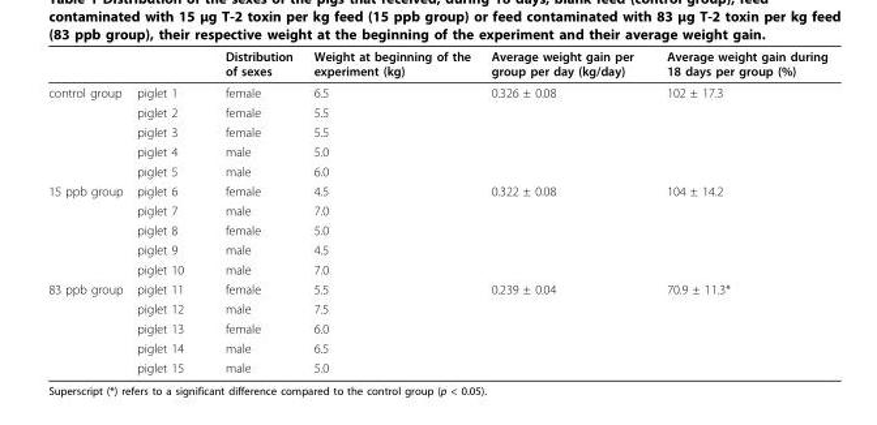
<table><thead><tr><td></td><td></td><td>Distribution of sexes</td><td>Weight at beginning of the experiment (kg)</td><td>Average weight gain per group per day (kg/day)</td><td>Average weight gain during 18 days per group (%)</td></tr></thead><tbody><tr><td rowspan="5">control group</td><td>piglet 1</td><td>female</td><td>6.5</td><td>0.326 ± 0.08</td><td>102 ± 17.3</td></tr><tr><td>piglet 2</td><td>female</td><td>5.5</td><td></td><td></td></tr><tr><td>piglet 3</td><td>female</td><td>5.5</td><td></td><td></td></tr><tr><td>piglet 4</td><td>male</td><td>5.0</td><td></td><td></td></tr><tr><td>piglet 5</td><td>male</td><td>6.0</td><td></td><td></td></tr><tr><td rowspan="5">15 ppb group</td><td>piglet 6</td><td>female</td><td>4.5</td><td>0.322 ± 0.08</td><td>104 ± 14.2</td></tr><tr><td>piglet 7</td><td>male</td><td>7.0</td><td></td><td></td></tr><tr><td>piglet 8</td><td>female</td><td>5.0</td><td></td><td></td></tr><tr><td>piglet 9</td><td>male</td><td>4.5</td><td></td><td></td></tr><tr><td>piglet 10</td><td>male</td><td>7.0</td><td></td><td></td></tr><tr><td rowspan="5">83 ppb group</td><td>piglet 11</td><td>female</td><td>5.5</td><td>0.239 ± 0.04</td><td>70.9 ± 11.3*</td></tr><tr><td>piglet 12</td><td>male</td><td>7.5</td><td></td><td></td></tr><tr><td>piglet 13</td><td>female</td><td>6.0</td><td></td><td></td></tr><tr><td>piglet 14</td><td>male</td><td>6.5</td><td></td><td></td></tr><tr><td>piglet 15</td><td>male</td><td>5.0</td><td></td><td></td></tr></tbody></table>